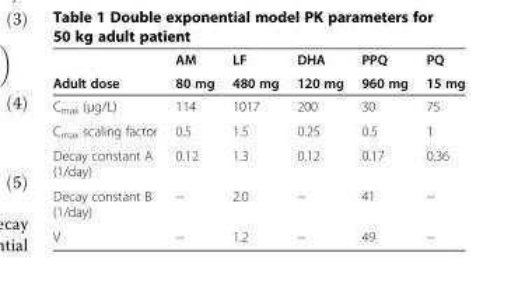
<table><thead><tr><td rowspan="2">Adult dose</td><td rowspan="2">AM 80 mg</td><td rowspan="2">LF 480 mg</td><td rowspan="2">DHA 120 mg</td><td rowspan="2">PPQ 960 mg</td><td rowspan="2">PQ 15 mg</td></tr><tr></tr></thead><tbody><tr><td>C<sub>max</sub> (μg/L)</td><td>114</td><td>1017</td><td>200</td><td>30</td><td>75</td></tr><tr><td>C<sub>max</sub> scaling factor</td><td>0.5</td><td>1.5</td><td>0.25</td><td>0.5</td><td>1</td></tr><tr><td>Decay constant A (1/day)</td><td>0.12</td><td>1.3</td><td>0.12</td><td>0.17</td><td>0.36</td></tr><tr><td>Decay constant B (1/day)</td><td>--</td><td>2.0</td><td>--</td><td>41</td><td>--</td></tr><tr><td>V</td><td>--</td><td>1.2</td><td>--</td><td>49</td><td>--</td></tr></tbody></table>